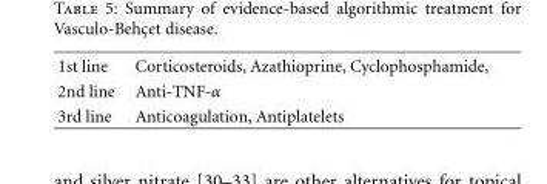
<table><tbody><tr><td>1st line</td><td>Corticosteroids, Azathioprine, Cyclophosphamide,</td></tr><tr><td>2nd line</td><td>Anti-TNF-α</td></tr><tr><td>3rd line</td><td>Anticoagulation, Antiplatelets</td></tr></tbody></table>